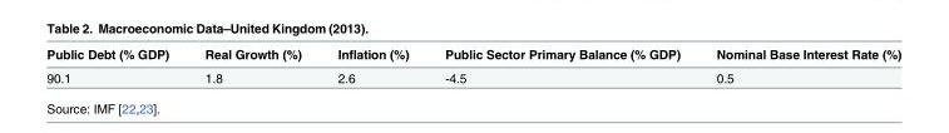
<table><thead><tr><td>Public Debt (% GDP)</td><td>Real Growth (%)</td><td>Inflation (%)</td><td>Public Sector Primary Balance (% GDP)</td><td>Nominal Base Interest Rate (%)</td></tr></thead><tbody><tr><td>90.1</td><td>1.8</td><td>2.6</td><td>-4.5</td><td>0.5</td></tr></tbody></table>